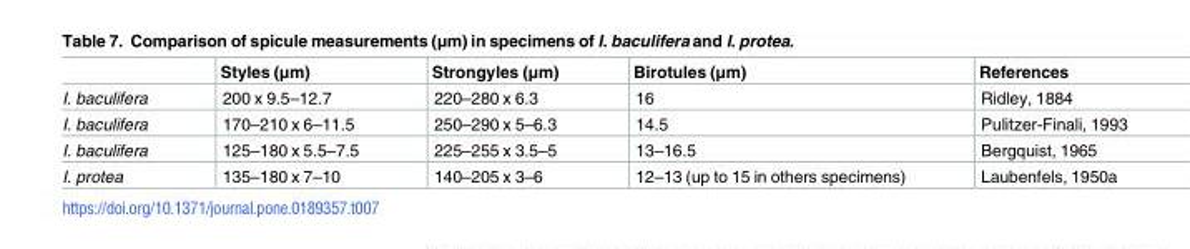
<table><thead><tr><td></td><td>Styles (μm)</td><td>Strongyles (μm)</td><td>Birotules (μm)</td><td>References</td></tr></thead><tbody><tr><td>I. baculifera</td><td>200 x 9.5–12.7</td><td>220–280 x 6.3</td><td>16</td><td>Ridley, 1884</td></tr><tr><td>I. baculifera</td><td>170–210 x 6–11.5</td><td>250–290 x 5–6.3</td><td>14.5</td><td>Pulitzer-Finali, 1993</td></tr><tr><td>I. baculifera</td><td>125–180 x 5.5–7.5</td><td>225–255 x 3.5–5</td><td>13–16.5</td><td>Bergquist, 1965</td></tr><tr><td>I. protea</td><td>135–180 x 7–10</td><td>140–205 x 3–6</td><td>12–13 (up to 15 in others specimens)</td><td>Laubenfels, 1950a</td></tr></tbody></table>